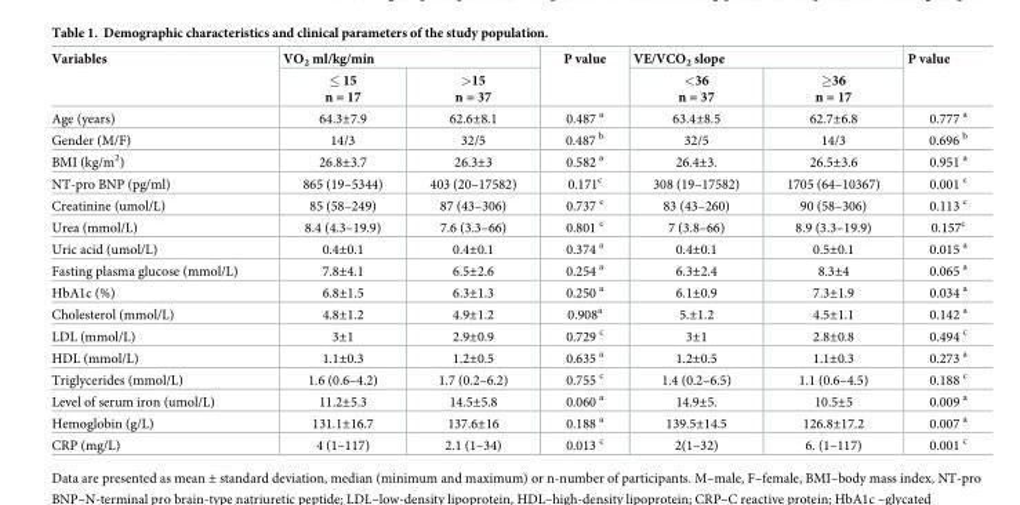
<table><thead><tr><td rowspan="2">Variables</td><td colspan="2">VO<sub>2</sub> ml/kg/min</td><td rowspan="2">P value</td><td colspan="2">VE/VCO<sub>2</sub> slope</td><td rowspan="2">P value</td></tr><tr><td>≤ 15 n = 17</td><td>&gt;15 n = 37</td><td>&lt;36 n = 37</td><td>≥36 n = 17</td></tr></thead><tbody><tr><td>Age (years)</td><td>64.3±7.9</td><td>62.6±8.1</td><td>0.487 <sup>a</sup></td><td>63.4±8.5</td><td>62.7±6.8</td><td>0.777 <sup>a</sup></td></tr><tr><td>Gender (M/F)</td><td>14/3</td><td>32/5</td><td>0.487 <sup>b</sup></td><td>32/5</td><td>14/3</td><td>0.696 <sup>b</sup></td></tr><tr><td>BMI (kg/m<sup>2</sup>)</td><td>26.8±3.7</td><td>26.3±3</td><td>0.582 <sup>a</sup></td><td>26.4±3.</td><td>26.5±3.6</td><td>0.951 <sup>a</sup></td></tr><tr><td>NT-pro BNP (pg/ml)</td><td>865 (19–5344)</td><td>403 (20–17582)</td><td>0.171<sup>c</sup></td><td>308 (19–17582)</td><td>1705 (64–10367)</td><td>0.001 <sup>c</sup></td></tr><tr><td>Creatinine (umol/L)</td><td>85 (58–249)</td><td>87 (43–306)</td><td>0.737 <sup>c</sup></td><td>83 (43–260)</td><td>90 (58–306)</td><td>0.113 <sup>c</sup></td></tr><tr><td>Urea (mmol/L)</td><td>8.4 (4.3–19.9)</td><td>7.6 (3.3–66)</td><td>0.801 <sup>c</sup></td><td>7 (3.8–66)</td><td>8.9 (3.3–19.9)</td><td>0.157<sup>c</sup></td></tr><tr><td>Uric acid (umol/L)</td><td>0.4±0.1</td><td>0.4±0.1</td><td>0.374 <sup>a</sup></td><td>0.4±0.1</td><td>0.5±0.1</td><td>0.015 <sup>a</sup></td></tr><tr><td>Fasting plasma glucose (mmol/L)</td><td>7.8±4.1</td><td>6.5±2.6</td><td>0.254 <sup>a</sup></td><td>6.3±2.4</td><td>8.3±4</td><td>0.065 <sup>a</sup></td></tr><tr><td>HbA1c (%)</td><td>6.8±1.5</td><td>6.3±1.3</td><td>0.250 <sup>a</sup></td><td>6.1±0.9</td><td>7.3±1.9</td><td>0.034 <sup>a</sup></td></tr><tr><td>Cholesterol (mmol/L)</td><td>4.8±1.2</td><td>4.9±1.2</td><td>0.908<sup>a</sup></td><td>5.±1.2</td><td>4.5±1.1</td><td>0.142 <sup>a</sup></td></tr><tr><td>LDL (mmol/L)</td><td>3±1</td><td>2.9±0.9</td><td>0.729 <sup>c</sup></td><td>3±1</td><td>2.8±0.8</td><td>0.494 <sup>c</sup></td></tr><tr><td>HDL (mmol/L)</td><td>1.1±0.3</td><td>1.2±0.5</td><td>0.635 <sup>a</sup></td><td>1.2±0.5</td><td>1.1±0.3</td><td>0.273 <sup>a</sup></td></tr><tr><td>Triglycerides (mmol/L)</td><td>1.6 (0.6–4.2)</td><td>1.7 (0.2–6.2)</td><td>0.755 <sup>c</sup></td><td>1.4 (0.2–6.5)</td><td>1.1 (0.6–4.5)</td><td>0.188 <sup>c</sup></td></tr><tr><td>Level of serum iron (umol/L)</td><td>11.2±5.3</td><td>14.5±5.8</td><td>0.060 <sup>a</sup></td><td>14.9±5.</td><td>10.5±5</td><td>0.009 <sup>a</sup></td></tr><tr><td>Hemoglobin (g/L)</td><td>131.1±16.7</td><td>137.6±16</td><td>0.188 <sup>a</sup></td><td>139.5±14.5</td><td>126.8±17.2</td><td>0.007 <sup>a</sup></td></tr><tr><td>CRP (mg/L)</td><td>4 (1–117)</td><td>2.1 (1–34)</td><td>0.013 <sup>c</sup></td><td>2(1–32)</td><td>6. (1–117)</td><td>0.001 <sup>c</sup></td></tr></tbody></table>